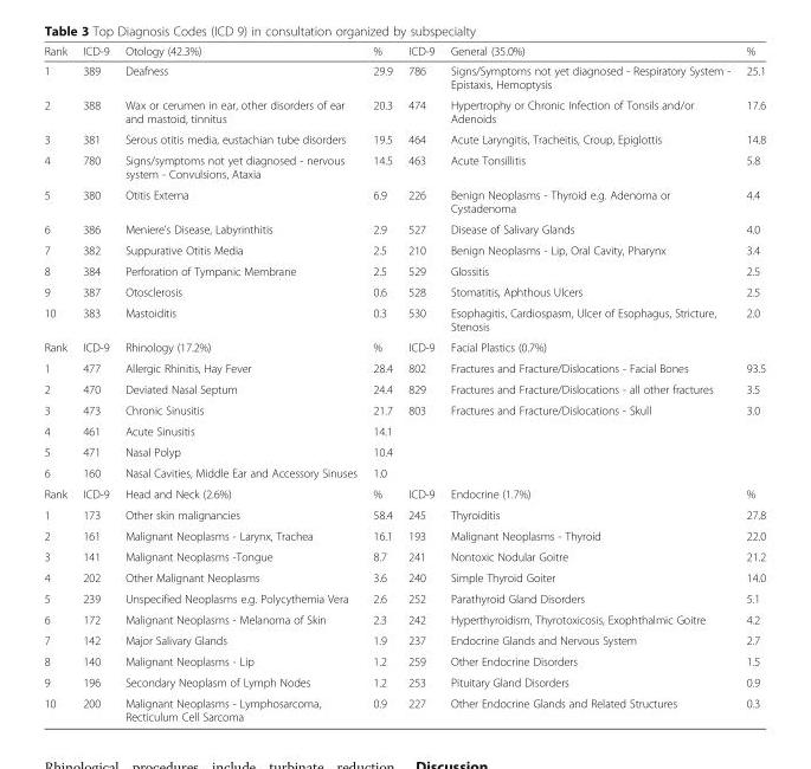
<table><thead><tr><td>Rank</td><td>ICD-9</td><td>Otology (42.3%)</td><td>%</td><td>ICD-9</td><td>General (35.0%)</td><td>%</td></tr></thead><tbody><tr><td>1</td><td>389</td><td>Deafness</td><td>29.9</td><td>786</td><td>Signs/Symptoms not yet diagnosed - Respiratory System - Epistaxis, Hemoptysis</td><td>25.1</td></tr><tr><td>2</td><td>388</td><td>Wax or cerumen in ear, other disorders of ear and mastoid, tinnitus</td><td>20.3</td><td>474</td><td>Hypertrophy or Chronic Infection of Tonsils and/or Adenoids</td><td>17.6</td></tr><tr><td>3</td><td>381</td><td>Serous otitis media, eustachian tube disorders</td><td>19.5</td><td>464</td><td>Acute Laryngitis, Tracheitis, Croup, Epiglottis</td><td>14.8</td></tr><tr><td>4</td><td>780</td><td>Signs/symptoms not yet diagnosed - nervous system - Convulsions, Ataxia</td><td>14.5</td><td>463</td><td>Acute Tonsillitis</td><td>5.8</td></tr><tr><td>5</td><td>380</td><td>Otitis Externa</td><td>6.9</td><td>226</td><td>Benign Neoplasms - Thyroid e.g. Adenoma or Cystadenoma</td><td>4.4</td></tr><tr><td>6</td><td>386</td><td>Meniere’s Disease, Labyrinthitis</td><td>2.9</td><td>527</td><td>Disease of Salivary Glands</td><td>4.0</td></tr><tr><td>7</td><td>382</td><td>Suppurative Otitis Media</td><td>2.5</td><td>210</td><td>Benign Neoplasms - Lip, Oral Cavity, Pharynx</td><td>3.4</td></tr><tr><td>8</td><td>384</td><td>Perforation of Tympanic Membrane</td><td>2.5</td><td>529</td><td>Glossitis</td><td>2.5</td></tr><tr><td>9</td><td>387</td><td>Otosclerosis</td><td>0.6</td><td>528</td><td>Stomatitis, Aphthous Ulcers</td><td>2.5</td></tr><tr><td>10</td><td>383</td><td>Mastoiditis</td><td>0.3</td><td>530</td><td>Esophagitis, Cardiospasm, Ulcer of Esophagus, Stricture, Stenosis</td><td>2.0</td></tr><tr><td>Rank</td><td>ICD-9</td><td>Rhinology (17.2%)</td><td>%</td><td>ICD-9</td><td>Facial Plastics (0.7%)</td><td></td></tr><tr><td>1</td><td>477</td><td>Allergic Rhinitis, Hay Fever</td><td>28.4</td><td>802</td><td>Fractures and Fracture/Dislocations - Facial Bones</td><td>93.5</td></tr><tr><td>2</td><td>470</td><td>Deviated Nasal Septum</td><td>24.4</td><td>829</td><td>Fractures and Fracture/Dislocations - all other fractures</td><td>3.5</td></tr><tr><td>3</td><td>473</td><td>Chronic Sinusitis</td><td>21.7</td><td>803</td><td>Fractures and Fracture/Dislocations - Skull</td><td>3.0</td></tr><tr><td>4</td><td>461</td><td>Acute Sinusitis</td><td>14.1</td><td rowspan="3"></td><td rowspan="3"></td><td rowspan="3"></td></tr><tr><td>5</td><td>471</td><td>Nasal Polyp</td><td>10.4</td></tr><tr><td>6</td><td>160</td><td>Nasal Cavities, Middle Ear and Accessory Sinuses</td><td>1.0</td></tr><tr><td>Rank</td><td>ICD-9</td><td>Head and Neck (2.6%)</td><td>%</td><td>ICD-9</td><td>Endocrine (1.7%)</td><td>%</td></tr><tr><td>1</td><td>173</td><td>Other skin malignancies</td><td>58.4</td><td>245</td><td>Thyroiditis</td><td>27.8</td></tr><tr><td>2</td><td>161</td><td>Malignant Neoplasms - Larynx, Trachea</td><td>16.1</td><td>193</td><td>Malignant Neoplasms - Thyroid</td><td>22.0</td></tr><tr><td>3</td><td>141</td><td>Malignant Neoplasms -Tongue</td><td>8.7</td><td>241</td><td>Nontoxic Nodular Goitre</td><td>21.2</td></tr><tr><td>4</td><td>202</td><td>Other Malignant Neoplasms</td><td>3.6</td><td>240</td><td>Simple Thyroid Goiter</td><td>14.0</td></tr><tr><td>5</td><td>239</td><td>Unspecified Neoplasms e.g. Polycythemia Vera</td><td>2.6</td><td>252</td><td>Parathyroid Gland Disorders</td><td>5.1</td></tr><tr><td>6</td><td>172</td><td>Malignant Neoplasms - Melanoma of Skin</td><td>2.3</td><td>242</td><td>Hyperthyroidism, Thyrotoxicosis, Exophthalmic Goitre</td><td>4.2</td></tr><tr><td>7</td><td>142</td><td>Major Salivary Glands</td><td>1.9</td><td>237</td><td>Endocrine Glands and Nervous System</td><td>2.7</td></tr><tr><td>8</td><td>140</td><td>Malignant Neoplasms - Lip</td><td>1.2</td><td>259</td><td>Other Endocrine Disorders</td><td>1.5</td></tr><tr><td>9</td><td>196</td><td>Secondary Neoplasm of Lymph Nodes</td><td>1.2</td><td>253</td><td>Pituitary Gland Disorders</td><td>0.9</td></tr><tr><td>10</td><td>200</td><td>Malignant Neoplasms - Lymphosarcoma, Recticulum Cell Sarcoma</td><td>0.9</td><td>227</td><td>Other Endocrine Glands and Related Structures</td><td>0.3</td></tr></tbody></table>